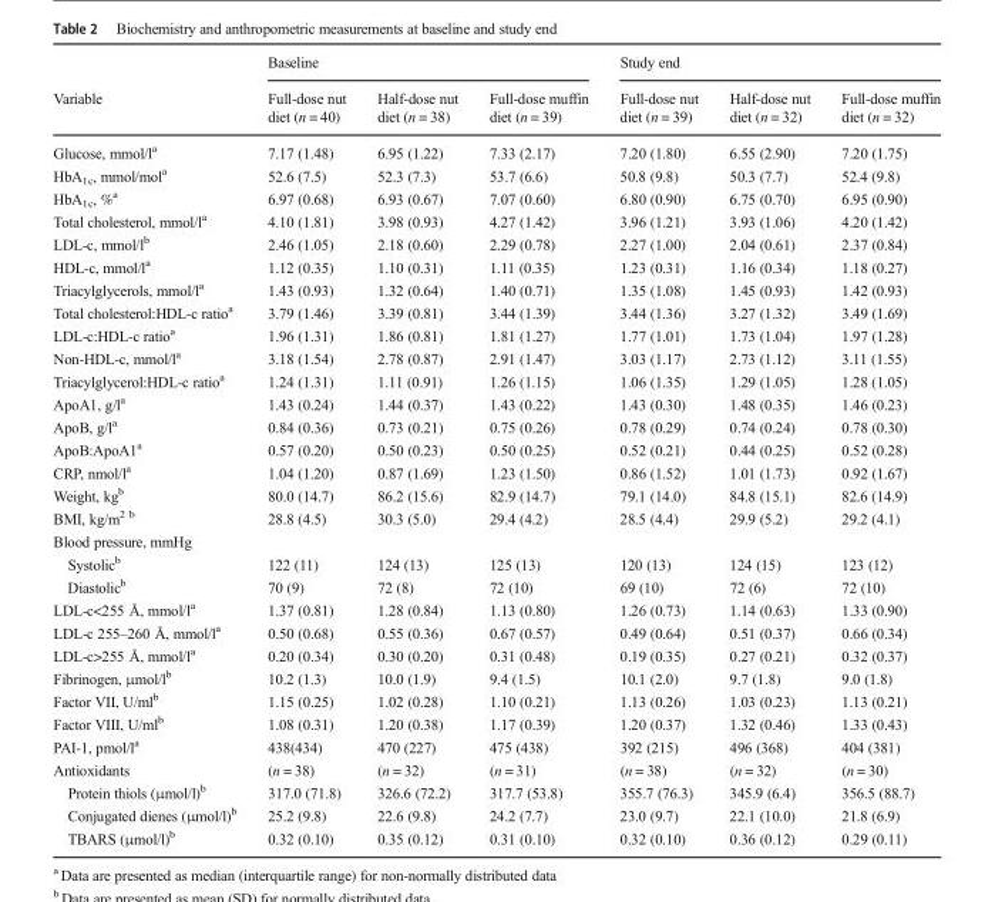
<table><thead><tr><td rowspan="2">Variable</td><td colspan="3">Baseline</td><td colspan="3">Study end</td></tr><tr><td>Full-dose nut diet (n = 40)</td><td>Half-dose nut diet (n = 38)</td><td>Full-dose muffin diet (n = 39)</td><td>Full-dose nut diet (n = 39)</td><td>Half-dose nut diet (n = 32)</td><td>Full-dose muffin diet (n = 32)</td></tr></thead><tbody><tr><td>Glucose, mmol/l<sup>a</sup></td><td>7.17 (1.48)</td><td>6.95 (1.22)</td><td>7.33 (2.17)</td><td>7.20 (1.80)</td><td>6.55 (2.90)</td><td>7.20 (1.75)</td></tr><tr><td>HbA<sub>1c</sub>, mmol/mol<sup>a</sup></td><td>52.6 (7.5)</td><td>52.3 (7.3)</td><td>53.7 (6.6)</td><td>50.8 (9.8)</td><td>50.3 (7.7)</td><td>52.4 (9.8)</td></tr><tr><td>HbA<sub>1c</sub>, %<sup>a</sup></td><td>6.97 (0.68)</td><td>6.93 (0.67)</td><td>7.07 (0.60)</td><td>6.80 (0.90)</td><td>6.75 (0.70)</td><td>6.95 (0.90)</td></tr><tr><td>Total cholesterol, mmol/l<sup>a</sup></td><td>4.10 (1.81)</td><td>3.98 (0.93)</td><td>4.27 (1.42)</td><td>3.96 (1.21)</td><td>3.93 (1.06)</td><td>4.20 (1.42)</td></tr><tr><td>LDL-c, mmol/l<sup>b</sup></td><td>2.46 (1.05)</td><td>2.18 (0.60)</td><td>2.29 (0.78)</td><td>2.27 (1.00)</td><td>2.04 (0.61)</td><td>2.37 (0.84)</td></tr><tr><td>HDL-c, mmol/l<sup>a</sup></td><td>1.12 (0.35)</td><td>1.10 (0.31)</td><td>1.11 (0.35)</td><td>1.23 (0.31)</td><td>1.16 (0.34)</td><td>1.18 (0.27)</td></tr><tr><td>Triacylglycerols, mmol/l<sup>a</sup></td><td>1.43 (0.93)</td><td>1.32 (0.64)</td><td>1.40 (0.71)</td><td>1.35 (1.08)</td><td>1.45 (0.93)</td><td>1.42 (0.93)</td></tr><tr><td>Total cholesterol:HDL-c ratio<sup>a</sup></td><td>3.79 (1.46)</td><td>3.39 (0.81)</td><td>3.44 (1.39)</td><td>3.44 (1.36)</td><td>3.27 (1.32)</td><td>3.49 (1.69)</td></tr><tr><td>LDL-c:HDL-c ratio<sup>a</sup></td><td>1.96 (1.31)</td><td>1.86 (0.81)</td><td>1.81 (1.27)</td><td>1.77 (1.01)</td><td>1.73 (1.04)</td><td>1.97 (1.28)</td></tr><tr><td>Non-HDL-c, mmol/l<sup>a</sup></td><td>3.18 (1.54)</td><td>2.78 (0.87)</td><td>2.91 (1.47)</td><td>3.03 (1.17)</td><td>2.73 (1.12)</td><td>3.11 (1.55)</td></tr><tr><td>Triacylglycerol:HDL-c ratio<sup>a</sup></td><td>1.24 (1.31)</td><td>1.11 (0.91)</td><td>1.26 (1.15)</td><td>1.06 (1.35)</td><td>1.29 (1.05)</td><td>1.28 (1.05)</td></tr><tr><td>ApoA1, g/l<sup>a</sup></td><td>1.43 (0.24)</td><td>1.44 (0.37)</td><td>1.43 (0.22)</td><td>1.43 (0.30)</td><td>1.48 (0.35)</td><td>1.46 (0.23)</td></tr><tr><td>ApoB, g/l<sup>a</sup></td><td>0.84 (0.36)</td><td>0.73 (0.21)</td><td>0.75 (0.26)</td><td>0.78 (0.29)</td><td>0.74 (0.24)</td><td>0.78 (0.30)</td></tr><tr><td>ApoB:ApoA1<sup>a</sup></td><td>0.57 (0.20)</td><td>0.50 (0.23)</td><td>0.50 (0.25)</td><td>0.52 (0.21)</td><td>0.44 (0.25)</td><td>0.52 (0.28)</td></tr><tr><td>CRP, nmol/l<sup>a</sup></td><td>1.04 (1.20)</td><td>0.87 (1.69)</td><td>1.23 (1.50)</td><td>0.86 (1.52)</td><td>1.01 (1.73)</td><td>0.92 (1.67)</td></tr><tr><td>Weight, kg<sup>b</sup></td><td>80.0 (14.7)</td><td>86.2 (15.6)</td><td>82.9 (14.7)</td><td>79.1 (14.0)</td><td>84.8 (15.1)</td><td>82.6 (14.9)</td></tr><tr><td>BMI, kg/m<sup>2 b</sup></td><td>28.8 (4.5)</td><td>30.3 (5.0)</td><td>29.4 (4.2)</td><td>28.5 (4.4)</td><td>29.9 (5.2)</td><td>29.2 (4.1)</td></tr><tr><td colspan="7">Blood pressure, mmHg</td></tr><tr><td>Systolic<sup>b</sup></td><td>122 (11)</td><td>124 (13)</td><td>125 (13)</td><td>120 (13)</td><td>124 (15)</td><td>123 (12)</td></tr><tr><td>Diastolic<sup>b</sup></td><td>70 (9)</td><td>72 (8)</td><td>72 (10)</td><td>69 (10)</td><td>72 (6)</td><td>72 (10)</td></tr><tr><td>LDL-c&lt;255 Å, mmol/l<sup>a</sup></td><td>1.37 (0.81)</td><td>1.28 (0.84)</td><td>1.13 (0.80)</td><td>1.26 (0.73)</td><td>1.14 (0.63)</td><td>1.33 (0.90)</td></tr><tr><td>LDL-c 255–260 Å, mmol/l<sup>a</sup></td><td>0.50 (0.68)</td><td>0.55 (0.36)</td><td>0.67 (0.57)</td><td>0.49 (0.64)</td><td>0.51 (0.37)</td><td>0.66 (0.34)</td></tr><tr><td>LDL-c&gt;255 Å, mmol/l<sup>a</sup></td><td>0.20 (0.34)</td><td>0.30 (0.20)</td><td>0.31 (0.48)</td><td>0.19 (0.35)</td><td>0.27 (0.21)</td><td>0.32 (0.37)</td></tr><tr><td>Fibrinogen, μmol/l<sup>b</sup></td><td>10.2 (1.3)</td><td>10.0 (1.9)</td><td>9.4 (1.5)</td><td>10.1 (2.0)</td><td>9.7 (1.8)</td><td>9.0 (1.8)</td></tr><tr><td>Factor VII, U/ml<sup>b</sup></td><td>1.15 (0.25)</td><td>1.02 (0.28)</td><td>1.10 (0.21)</td><td>1.13 (0.26)</td><td>1.03 (0.23)</td><td>1.13 (0.21)</td></tr><tr><td>Factor VIII, U/ml<sup>b</sup></td><td>1.08 (0.31)</td><td>1.20 (0.38)</td><td>1.17 (0.39)</td><td>1.20 (0.37)</td><td>1.32 (0.46)</td><td>1.33 (0.43)</td></tr><tr><td>PAI-1, pmol/l<sup>a</sup></td><td>438(434)</td><td>470 (227)</td><td>475 (438)</td><td>392 (215)</td><td>496 (368)</td><td>404 (381)</td></tr><tr><td>Antioxidants</td><td>(n = 38)</td><td>(n = 32)</td><td>(n = 31)</td><td>(n = 38)</td><td>(n = 32)</td><td>(n = 30)</td></tr><tr><td>Protein thiols (μmol/l)<sup>b</sup></td><td>317.0 (71.8)</td><td>326.6 (72.2)</td><td>317.7 (53.8)</td><td>355.7 (76.3)</td><td>345.9 (6.4)</td><td>356.5 (88.7)</td></tr><tr><td>Conjugated dienes (μmol/l)<sup>b</sup></td><td>25.2 (9.8)</td><td>22.6 (9.8)</td><td>24.2 (7.7)</td><td>23.0 (9.7)</td><td>22.1 (10.0)</td><td>21.8 (6.9)</td></tr><tr><td>TBARS (μmol/l)<sup>b</sup></td><td>0.32 (0.10)</td><td>0.35 (0.12)</td><td>0.31 (0.10)</td><td>0.32 (0.10)</td><td>0.36 (0.12)</td><td>0.29 (0.11)</td></tr></tbody></table>